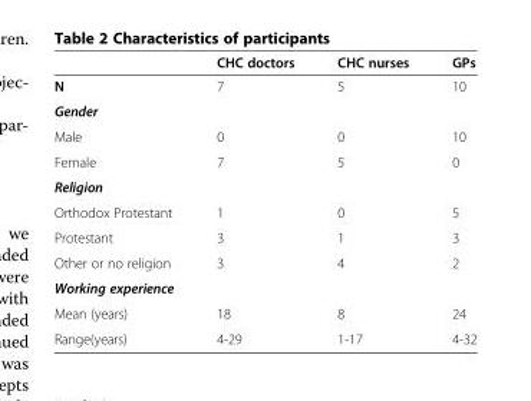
<table><thead><tr><td></td><td>CHC doctors</td><td>CHC nurses</td><td>GPs</td></tr></thead><tbody><tr><td>N</td><td>7</td><td>5</td><td>10</td></tr><tr><td colspan="4">Gender</td></tr><tr><td>Male</td><td>0</td><td>0</td><td>10</td></tr><tr><td>Female</td><td>7</td><td>5</td><td>0</td></tr><tr><td colspan="4">Religion</td></tr><tr><td>Orthodox Protestant</td><td>1</td><td>0</td><td>5</td></tr><tr><td>Protestant</td><td>3</td><td>1</td><td>3</td></tr><tr><td>Other or no religion</td><td>3</td><td>4</td><td>2</td></tr><tr><td colspan="4">Working experience</td></tr><tr><td>Mean (years)</td><td>18</td><td>8</td><td>24</td></tr><tr><td>Range(years)</td><td>4-29</td><td>1-17</td><td>4-32</td></tr></tbody></table>